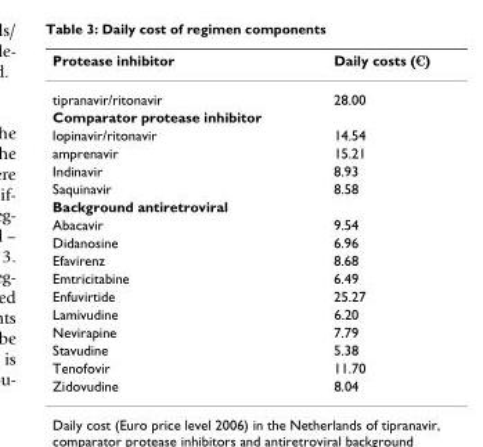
<table><thead><tr><td>Protease inhibitor</td><td>Daily costs (€)</td></tr></thead><tbody><tr><td>tipranavir/ritonavir</td><td>28.00</td></tr><tr><td colspan="2">Comparator protease inhibitor</td></tr><tr><td>lopinavir/ritonavir</td><td>14.54</td></tr><tr><td>amprenavir</td><td>15.21</td></tr><tr><td>Indinavir</td><td>8.93</td></tr><tr><td>Saquinavir</td><td>8.58</td></tr><tr><td colspan="2">Background antiretroviral</td></tr><tr><td>Abacavir</td><td>9.54</td></tr><tr><td>Didanosine</td><td>6.96</td></tr><tr><td>Efavirenz</td><td>8.68</td></tr><tr><td>Emtricitabine</td><td>6.49</td></tr><tr><td>Enfuvirtide</td><td>25.27</td></tr><tr><td>Lamivudine</td><td>6.20</td></tr><tr><td>Nevirapine</td><td>7.79</td></tr><tr><td>Stavudine</td><td>5.38</td></tr><tr><td>Tenofovir</td><td>11.70</td></tr><tr><td>Zidovudine</td><td>8.04</td></tr></tbody></table>